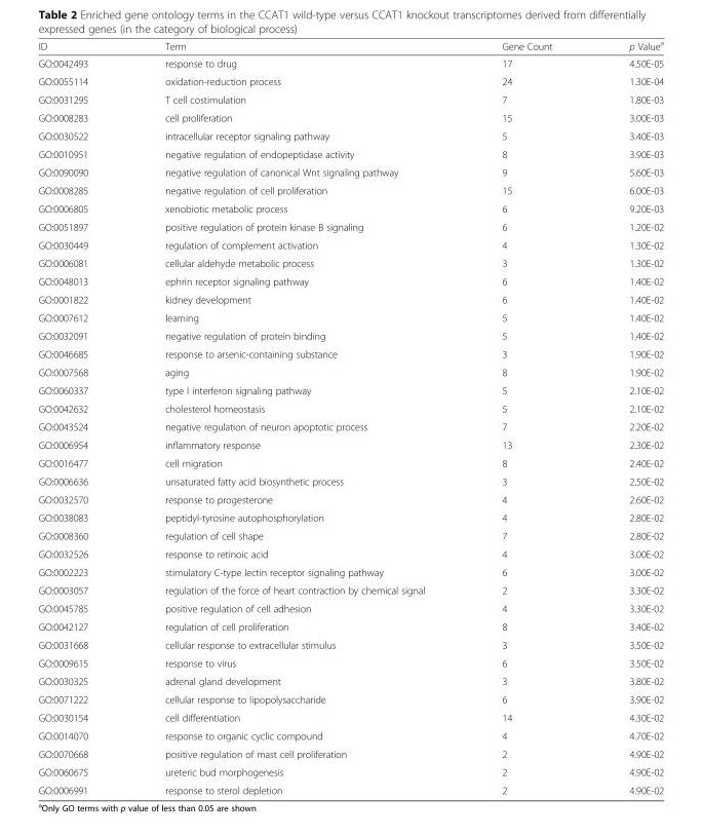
<table><thead><tr><td>ID</td><td>Term</td><td>Gene Count</td><td>p Value<sup>a</sup></td></tr></thead><tbody><tr><td>GO:0042493</td><td>response to drug</td><td>17</td><td>4.50E-05</td></tr><tr><td>GO:0055114</td><td>oxidation-reduction process</td><td>24</td><td>1.30E-04</td></tr><tr><td>GO:0031295</td><td>T cell costimulation</td><td>7</td><td>1.80E-03</td></tr><tr><td>GO:0008283</td><td>cell proliferation</td><td>15</td><td>3.00E-03</td></tr><tr><td>GO:0030522</td><td>intracellular receptor signaling pathway</td><td>5</td><td>3.40E-03</td></tr><tr><td>GO:0010951</td><td>negative regulation of endopeptidase activity</td><td>8</td><td>3.90E-03</td></tr><tr><td>GO:0090090</td><td>negative regulation of canonical Wnt signaling pathway</td><td>9</td><td>5.60E-03</td></tr><tr><td>GO:0008285</td><td>negative regulation of cell proliferation</td><td>15</td><td>6.00E-03</td></tr><tr><td>GO:0006805</td><td>xenobiotic metabolic process</td><td>6</td><td>9.20E-03</td></tr><tr><td>GO:0051897</td><td>positive regulation of protein kinase B signaling</td><td>6</td><td>1.20E-02</td></tr><tr><td>GO:0030449</td><td>regulation of complement activation</td><td>4</td><td>1.30E-02</td></tr><tr><td>GO:0006081</td><td>cellular aldehyde metabolic process</td><td>3</td><td>1.30E-02</td></tr><tr><td>GO:0048013</td><td>ephrin receptor signaling pathway</td><td>6</td><td>1.40E-02</td></tr><tr><td>GO:0001822</td><td>kidney development</td><td>6</td><td>1.40E-02</td></tr><tr><td>GO:0007612</td><td>learning</td><td>5</td><td>1.40E-02</td></tr><tr><td>GO:0032091</td><td>negative regulation of protein binding</td><td>5</td><td>1.40E-02</td></tr><tr><td>GO:0046685</td><td>response to arsenic-containing substance</td><td>3</td><td>1.90E-02</td></tr><tr><td>GO:0007568</td><td>aging</td><td>8</td><td>1.90E-02</td></tr><tr><td>GO:0060337</td><td>type I interferon signaling pathway</td><td>5</td><td>2.10E-02</td></tr><tr><td>GO:0042632</td><td>cholesterol homeostasis</td><td>5</td><td>2.10E-02</td></tr><tr><td>GO:0043524</td><td>negative regulation of neuron apoptotic process</td><td>7</td><td>2.20E-02</td></tr><tr><td>GO:0006954</td><td>inflammatory response</td><td>13</td><td>2.30E-02</td></tr><tr><td>GO:0016477</td><td>cell migration</td><td>8</td><td>2.40E-02</td></tr><tr><td>GO:0006636</td><td>unsaturated fatty acid biosynthetic process</td><td>3</td><td>2.50E-02</td></tr><tr><td>GO:0032570</td><td>response to progesterone</td><td>4</td><td>2.60E-02</td></tr><tr><td>GO:0038083</td><td>peptidyl-tyrosine autophosphorylation</td><td>4</td><td>2.80E-02</td></tr><tr><td>GO:0008360</td><td>regulation of cell shape</td><td>7</td><td>2.80E-02</td></tr><tr><td>GO:0032526</td><td>response to retinoic acid</td><td>4</td><td>3.00E-02</td></tr><tr><td>GO:0002223</td><td>stimulatory C-type lectin receptor signaling pathway</td><td>6</td><td>3.00E-02</td></tr><tr><td>GO:0003057</td><td>regulation of the force of heart contraction by chemical signal</td><td>2</td><td>3.30E-02</td></tr><tr><td>GO:0045785</td><td>positive regulation of cell adhesion</td><td>4</td><td>3.30E-02</td></tr><tr><td>GO:0042127</td><td>regulation of cell proliferation</td><td>8</td><td>3.40E-02</td></tr><tr><td>GO:0031668</td><td>cellular response to extracellular stimulus</td><td>3</td><td>3.50E-02</td></tr><tr><td>GO:0009615</td><td>response to virus</td><td>6</td><td>3.50E-02</td></tr><tr><td>GO:0030325</td><td>adrenal gland development</td><td>3</td><td>3.80E-02</td></tr><tr><td>GO:0071222</td><td>cellular response to lipopolysaccharide</td><td>6</td><td>3.90E-02</td></tr><tr><td>GO:0030154</td><td>cell differentiation</td><td>14</td><td>4.30E-02</td></tr><tr><td>GO:0014070</td><td>response to organic cyclic compound</td><td>4</td><td>4.70E-02</td></tr><tr><td>GO:0070668</td><td>positive regulation of mast cell proliferation</td><td>2</td><td>4.90E-02</td></tr><tr><td>GO:0060675</td><td>ureteric bud morphogenesis</td><td>2</td><td>4.90E-02</td></tr><tr><td>GO:0006991</td><td>response to sterol depletion</td><td>2</td><td>4.90E-02</td></tr></tbody></table>